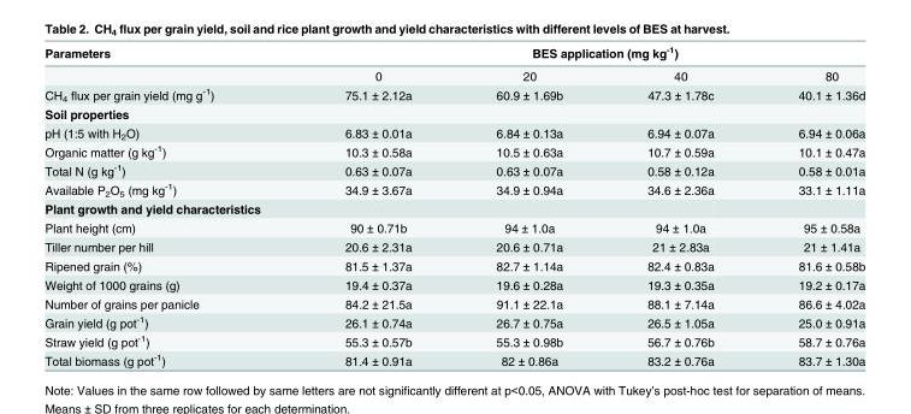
<table><thead><tr><td rowspan="2">Parameters</td><td colspan="4">BES application (mg kg<sup>-1</sup>)</td></tr><tr><td>0</td><td>20</td><td>40</td><td>80</td></tr></thead><tbody><tr><td>CH<sub>4</sub> flux per grain yield (mg g<sup>-1</sup>)</td><td>75.1 ± 2.12a</td><td>60.9 ± 1.69b</td><td>47.3 ± 1.78c</td><td>40.1 ± 1.36d</td></tr><tr><td colspan="5">Soil properties</td></tr><tr><td>pH (1:5 with H<sub>2</sub>O)</td><td>6.83 ± 0.01a</td><td>6.84 ± 0.13a</td><td>6.94 ± 0.07a</td><td>6.94 ± 0.06a</td></tr><tr><td>Organic matter (g kg<sup>-1</sup>)</td><td>10.3 ± 0.58a</td><td>10.5 ± 0.63a</td><td>10.7 ± 0.59a</td><td>10.1 ± 0.47a</td></tr><tr><td>Total N (g kg<sup>-1</sup>)</td><td>0.63 ± 0.07a</td><td>0.63 ± 0.07a</td><td>0.58 ± 0.12a</td><td>0.58 ± 0.01a</td></tr><tr><td>Available P<sub>2</sub>O<sub>5</sub> (mg kg<sup>-1</sup>)</td><td>34.9 ± 3.67a</td><td>34.9 ± 0.94a</td><td>34.6 ± 2.36a</td><td>33.1 ± 1.11a</td></tr><tr><td colspan="5">Plant growth and yield characteristics</td></tr><tr><td>Plant height (cm)</td><td>90 ± 0.71b</td><td>94 ± 1.0a</td><td>94 ± 1.0a</td><td>95 ± 0.58a</td></tr><tr><td>Tiller number per hill</td><td>20.6 ± 2.31a</td><td>20.6 ± 0.71a</td><td>21 ± 2.83a</td><td>21 ± 1.41a</td></tr><tr><td>Ripened grain (%)</td><td>81.5 ± 1.37a</td><td>82.7 ± 1.14a</td><td>82.4 ± 0.83a</td><td>81.6 ± 0.58b</td></tr><tr><td>Weight of 1000 grains (g)</td><td>19.4 ± 0.37a</td><td>19.6 ± 0.28a</td><td>19.3 ± 0.35a</td><td>19.2 ± 0.17a</td></tr><tr><td>Number of grains per panicle</td><td>84.2 ± 21.5a</td><td>91.1 ± 22.1a</td><td>88.1 ± 7.14a</td><td>86.6 ± 4.02a</td></tr><tr><td>Grain yield (g pot<sup>-1</sup>)</td><td>26.1 ± 0.74a</td><td>26.7 ± 0.75a</td><td>26.5 ± 1.05a</td><td>25.0 ± 0.91a</td></tr><tr><td>Straw yield (g pot<sup>-1</sup>)</td><td>55.3 ± 0.57b</td><td>55.3 ± 0.98b</td><td>56.7 ± 0.76b</td><td>58.7 ± 0.76a</td></tr><tr><td>Total biomass (g pot<sup>-1</sup>)</td><td>81.4 ± 0.91a</td><td>82 ± 0.86a</td><td>83.2 ± 0.76a</td><td>83.7 ± 1.30a</td></tr></tbody></table>